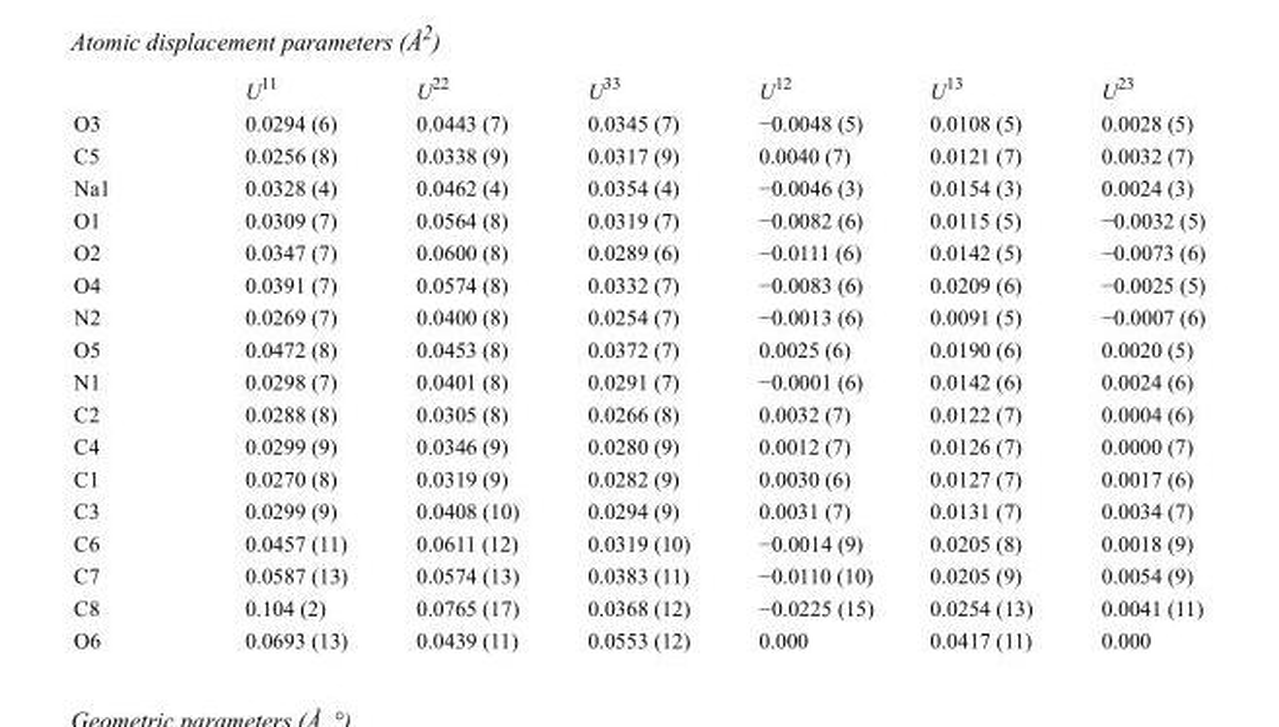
<table><thead><tr><td></td><td>U<sup>11</sup></td><td>U<sup>22</sup></td><td>U<sup>33</sup></td><td>U<sup>12</sup></td><td>U<sup>13</sup></td><td>U<sup>23</sup></td></tr></thead><tbody><tr><td>O3</td><td>0.0294 (6)</td><td>0.0443 (7)</td><td>0.0345 (7)</td><td>−0.0048 (5)</td><td>0.0108 (5)</td><td>0.0028 (5)</td></tr><tr><td>C5</td><td>0.0256 (8)</td><td>0.0338 (9)</td><td>0.0317 (9)</td><td>0.0040 (7)</td><td>0.0121 (7)</td><td>0.0032 (7)</td></tr><tr><td>Na1</td><td>0.0328 (4)</td><td>0.0462 (4)</td><td>0.0354 (4)</td><td>−0.0046 (3)</td><td>0.0154 (3)</td><td>0.0024 (3)</td></tr><tr><td>O1</td><td>0.0309 (7)</td><td>0.0564 (8)</td><td>0.0319 (7)</td><td>−0.0082 (6)</td><td>0.0115 (5)</td><td>−0.0032 (5)</td></tr><tr><td>O2</td><td>0.0347 (7)</td><td>0.0600 (8)</td><td>0.0289 (6)</td><td>−0.0111 (6)</td><td>0.0142 (5)</td><td>−0.0073 (6)</td></tr><tr><td>O4</td><td>0.0391 (7)</td><td>0.0574 (8)</td><td>0.0332 (7)</td><td>−0.0083 (6)</td><td>0.0209 (6)</td><td>−0.0025 (5)</td></tr><tr><td>N2</td><td>0.0269 (7)</td><td>0.0400 (8)</td><td>0.0254 (7)</td><td>−0.0013 (6)</td><td>0.0091 (5)</td><td>−0.0007 (6)</td></tr><tr><td>O5</td><td>0.0472 (8)</td><td>0.0453 (8)</td><td>0.0372 (7)</td><td>0.0025 (6)</td><td>0.0190 (6)</td><td>0.0020 (5)</td></tr><tr><td>N1</td><td>0.0298 (7)</td><td>0.0401 (8)</td><td>0.0291 (7)</td><td>−0.0001 (6)</td><td>0.0142 (6)</td><td>0.0024 (6)</td></tr><tr><td>C2</td><td>0.0288 (8)</td><td>0.0305 (8)</td><td>0.0266 (8)</td><td>0.0032 (7)</td><td>0.0122 (7)</td><td>0.0004 (6)</td></tr><tr><td>C4</td><td>0.0299 (9)</td><td>0.0346 (9)</td><td>0.0280 (9)</td><td>0.0012 (7)</td><td>0.0126 (7)</td><td>0.0000 (7)</td></tr><tr><td>C1</td><td>0.0270 (8)</td><td>0.0319 (9)</td><td>0.0282 (9)</td><td>0.0030 (6)</td><td>0.0127 (7)</td><td>0.0017 (6)</td></tr><tr><td>C3</td><td>0.0299 (9)</td><td>0.0408 (10)</td><td>0.0294 (9)</td><td>0.0031 (7)</td><td>0.0131 (7)</td><td>0.0034 (7)</td></tr><tr><td>C6</td><td>0.0457 (11)</td><td>0.0611 (12)</td><td>0.0319 (10)</td><td>−0.0014 (9)</td><td>0.0205 (8)</td><td>0.0018 (9)</td></tr><tr><td>C7</td><td>0.0587 (13)</td><td>0.0574 (13)</td><td>0.0383 (11)</td><td>−0.0110 (10)</td><td>0.0205 (9)</td><td>0.0054 (9)</td></tr><tr><td>C8</td><td>0.104 (2)</td><td>0.0765 (17)</td><td>0.0368 (12)</td><td>−0.0225 (15)</td><td>0.0254 (13)</td><td>0.0041 (11)</td></tr><tr><td>O6</td><td>0.0693 (13)</td><td>0.0439 (11)</td><td>0.0553 (12)</td><td>0.000</td><td>0.0417 (11)</td><td>0.000</td></tr></tbody></table>